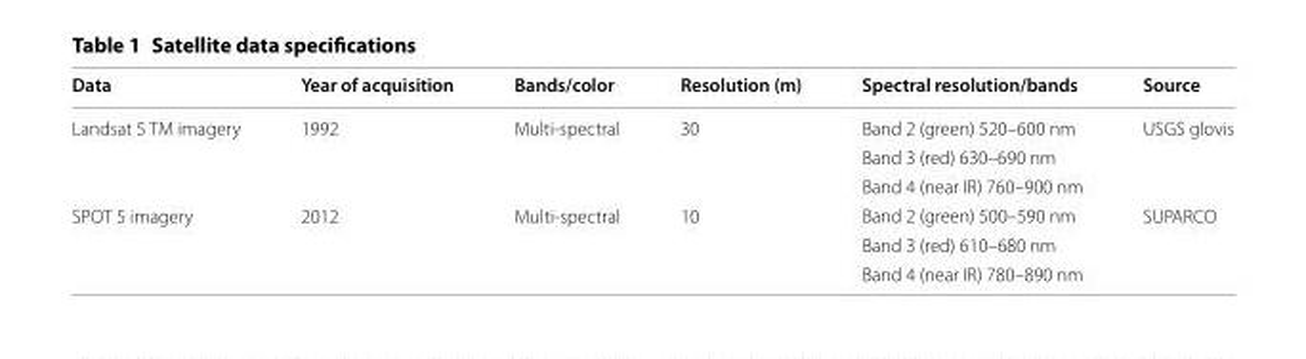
<table><thead><tr><td>Data</td><td>Year of acquisition</td><td>Bands/color</td><td>Resolution (m)</td><td>Spectral resolution/bands</td><td>Source</td></tr></thead><tbody><tr><td rowspan="3">Landsat 5 TM imagery</td><td rowspan="3">1992</td><td rowspan="3">Multi-spectral</td><td rowspan="3">30</td><td>Band 2 (green) 520–600 nm</td><td rowspan="3">USGS glovis</td></tr><tr><td>Band 3 (red) 630–690 nm</td></tr><tr><td>Band 4 (near IR) 760–900 nm</td></tr><tr><td rowspan="3">SPOT 5 imagery</td><td rowspan="3">2012</td><td rowspan="3">Multi-spectral</td><td rowspan="3">10</td><td>Band 2 (green) 500–590 nm</td><td rowspan="3">SUPARCO</td></tr><tr><td>Band 3 (red) 610–680 nm</td></tr><tr><td>Band 4 (near IR) 780–890 nm</td></tr></tbody></table>